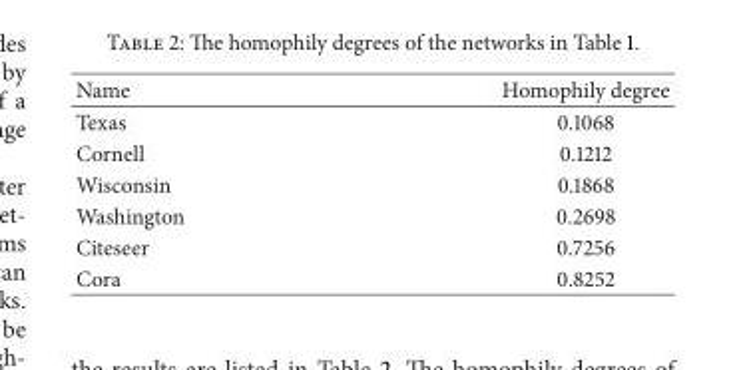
<table><thead><tr><td>Name</td><td>Homophily degree</td></tr></thead><tbody><tr><td>Texas</td><td>0.1068</td></tr><tr><td>Cornell</td><td>0.1212</td></tr><tr><td>Wisconsin</td><td>0.1868</td></tr><tr><td>Washington</td><td>0.2698</td></tr><tr><td>Citeseer</td><td>0.7256</td></tr><tr><td>Cora</td><td>0.8252</td></tr></tbody></table>